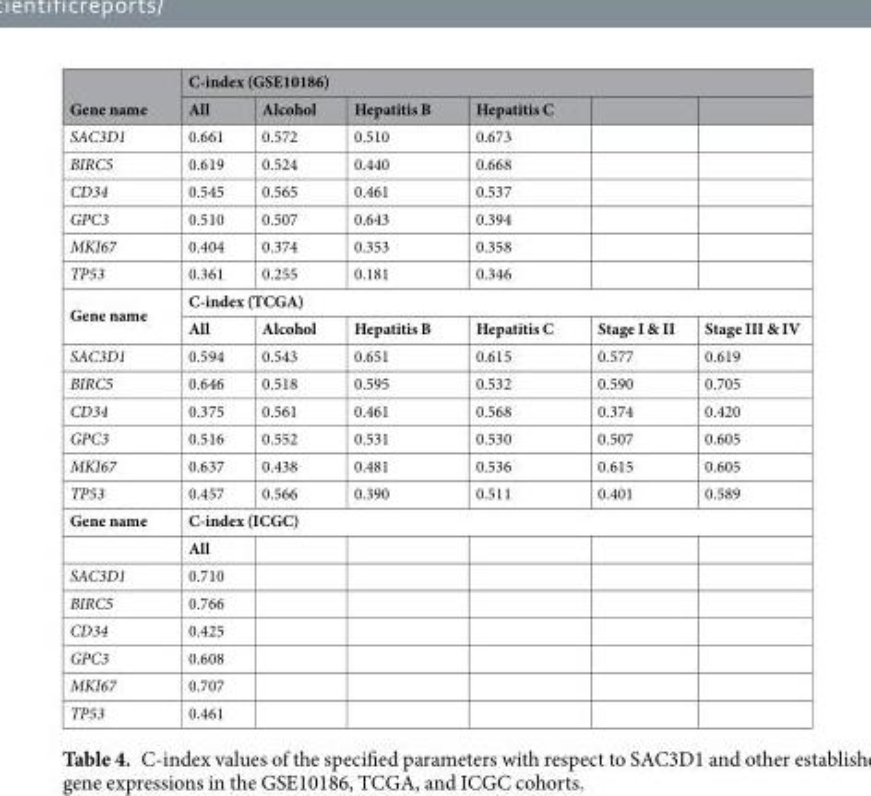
<table><thead><tr><td rowspan="2">Gene name</td><td colspan="6">C-index (GSE10186)</td></tr><tr><td>All</td><td>Alcohol</td><td>Hepatitis B</td><td>Hepatitis C</td><td></td><td></td></tr></thead><tbody><tr><td>SAC3D1</td><td>0.661</td><td>0.572</td><td>0.510</td><td>0.673</td><td></td><td></td></tr><tr><td>BIRC5</td><td>0.619</td><td>0.524</td><td>0.440</td><td>0.668</td><td></td><td></td></tr><tr><td>CD34</td><td>0.545</td><td>0.565</td><td>0.461</td><td>0.537</td><td></td><td></td></tr><tr><td>GPC3</td><td>0.510</td><td>0.507</td><td>0.643</td><td>0.394</td><td></td><td></td></tr><tr><td>MKI67</td><td>0.404</td><td>0.374</td><td>0.353</td><td>0.358</td><td></td><td></td></tr><tr><td>TP53</td><td>0.361</td><td>0.255</td><td>0.181</td><td>0.346</td><td></td><td></td></tr><tr><td rowspan="2">Gene name</td><td colspan="6">C-index (TCGA)</td></tr><tr><td>All</td><td>Alcohol</td><td>Hepatitis B</td><td>Hepatitis C</td><td>Stage I &amp; II</td><td>Stage III &amp; IV</td></tr><tr><td>SAC3D1</td><td>0.594</td><td>0.543</td><td>0.651</td><td>0.615</td><td>0.577</td><td>0.619</td></tr><tr><td>BIRC5</td><td>0.646</td><td>0.518</td><td>0.595</td><td>0.532</td><td>0.590</td><td>0.705</td></tr><tr><td>CD34</td><td>0.375</td><td>0.561</td><td>0.461</td><td>0.568</td><td>0.374</td><td>0.420</td></tr><tr><td>GPC3</td><td>0.516</td><td>0.552</td><td>0.531</td><td>0.530</td><td>0.507</td><td>0.605</td></tr><tr><td>MKI67</td><td>0.637</td><td>0.438</td><td>0.481</td><td>0.536</td><td>0.615</td><td>0.605</td></tr><tr><td>TP53</td><td>0.457</td><td>0.566</td><td>0.390</td><td>0.511</td><td>0.401</td><td>0.589</td></tr><tr><td rowspan="2">Gene name</td><td colspan="6">C-index (ICGC)</td></tr><tr><td>All</td><td></td><td></td><td></td><td></td><td></td></tr><tr><td>SAC3D1</td><td>0.710</td><td></td><td></td><td></td><td></td><td></td></tr><tr><td>BIRC5</td><td>0.766</td><td></td><td></td><td></td><td></td><td></td></tr><tr><td>CD34</td><td>0.425</td><td></td><td></td><td></td><td></td><td></td></tr><tr><td>GPC3</td><td>0.608</td><td></td><td></td><td></td><td></td><td></td></tr><tr><td>MKI67</td><td>0.707</td><td></td><td></td><td></td><td></td><td></td></tr><tr><td>TP53</td><td>0.461</td><td></td><td></td><td></td><td></td><td></td></tr></tbody></table>